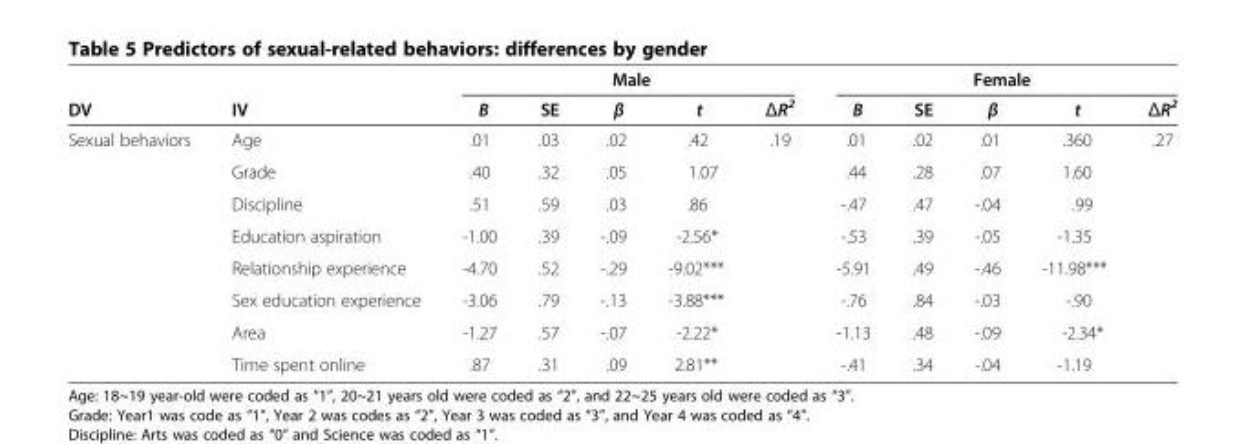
<table><thead><tr><td rowspan="2">DV</td><td rowspan="2">IV</td><td colspan="5">Male</td><td colspan="5">Female</td></tr><tr><td>B</td><td>SE</td><td>β</td><td>t</td><td>ΔR<sup>2</sup></td><td>B</td><td>SE</td><td>β</td><td>t</td><td>ΔR<sup>2</sup></td></tr></thead><tbody><tr><td rowspan="8">Sexual behaviors</td><td>Age</td><td>.01</td><td>.03</td><td>.02</td><td>.42</td><td>.19</td><td>.01</td><td>.02</td><td>.01</td><td>.360</td><td>.27</td></tr><tr><td>Grade</td><td>.40</td><td>.32</td><td>.05</td><td>1.07</td><td></td><td>.44</td><td>.28</td><td>.07</td><td>1.60</td><td></td></tr><tr><td>Discipline</td><td>.51</td><td>.59</td><td>.03</td><td>.86</td><td></td><td>-.47</td><td>.47</td><td>-.04</td><td>.99</td><td></td></tr><tr><td>Education aspiration</td><td>-1.00</td><td>.39</td><td>-.09</td><td>-2.56*</td><td></td><td>-.53</td><td>.39</td><td>-.05</td><td>-1.35</td><td></td></tr><tr><td>Relationship experience</td><td>-4.70</td><td>.52</td><td>-.29</td><td>-9.02***</td><td></td><td>-5.91</td><td>.49</td><td>-.46</td><td>-11.98***</td><td></td></tr><tr><td>Sex education experience</td><td>-3.06</td><td>.79</td><td>-.13</td><td>-3.88***</td><td></td><td>-.76</td><td>.84</td><td>-.03</td><td>-.90</td><td></td></tr><tr><td>Area</td><td>-1.27</td><td>.57</td><td>-.07</td><td>-2.22*</td><td></td><td>-1.13</td><td>.48</td><td>-.09</td><td>-2.34*</td><td></td></tr><tr><td>Time spent online</td><td>.87</td><td>.31</td><td>.09</td><td>2.81**</td><td></td><td>-.41</td><td>.34</td><td>-.04</td><td>-1.19</td><td></td></tr></tbody></table>